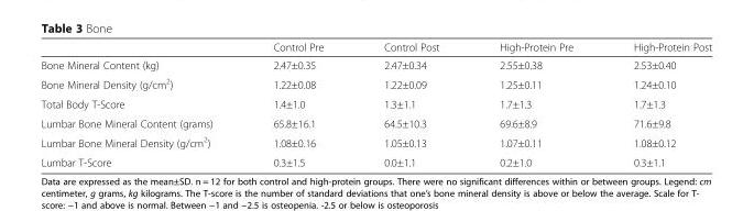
<table><thead><tr><td></td><td>Control Pre</td><td>Control Post</td><td>High-Protein Pre</td><td>High-Protein Post</td></tr></thead><tbody><tr><td>Bone Mineral Content (kg)</td><td>2.47±0.35</td><td>2.47±0.34</td><td>2.55±0.38</td><td>2.53±0.40</td></tr><tr><td>Bone Mineral Density (g/cm<sup>2</sup>)</td><td>1.22±0.08</td><td>1.22±0.09</td><td>1.25±0.11</td><td>1.24±0.10</td></tr><tr><td>Total Body T-Score</td><td>1.4±1.0</td><td>1.3±1.1</td><td>1.7±1.3</td><td>1.7±1.3</td></tr><tr><td>Lumbar Bone Mineral Content (grams)</td><td>65.8±16.1</td><td>64.5±10.3</td><td>69.6±8.9</td><td>71.6±9.8</td></tr><tr><td>Lumbar Bone Mineral Density (g/cm<sup>2</sup>)</td><td>1.08±0.16</td><td>1.05±0.13</td><td>1.07±0.11</td><td>1.08±0.12</td></tr><tr><td>Lumbar T-Score</td><td>0.3±1.5</td><td>0.0±1.1</td><td>0.2±1.0</td><td>0.3±1.1</td></tr></tbody></table>